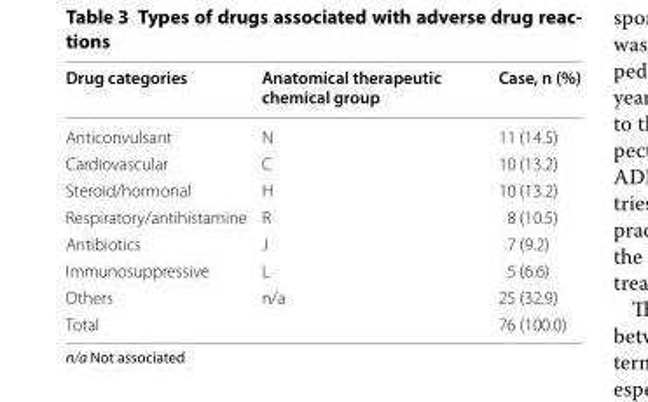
<table><thead><tr><td>Drug categories</td><td>Anatomical therapeutic chemical group</td><td>Case, n (%)</td></tr></thead><tbody><tr><td>Anticonvulsant</td><td>N</td><td>11 (14.5)</td></tr><tr><td>Cardiovascular</td><td>C</td><td>10 (13.2)</td></tr><tr><td>Steroid/hormonal</td><td>H</td><td>10 (13.2)</td></tr><tr><td>Respiratory/antihistamine</td><td>R</td><td>8 (10.5)</td></tr><tr><td>Antibiotics</td><td>J</td><td>7 (9.2)</td></tr><tr><td>Immunosuppressive</td><td>L</td><td>5 (6.6)</td></tr><tr><td>Others</td><td>n/a</td><td>25 (32.9)</td></tr><tr><td>Total</td><td></td><td>76 (100.0)</td></tr></tbody></table>